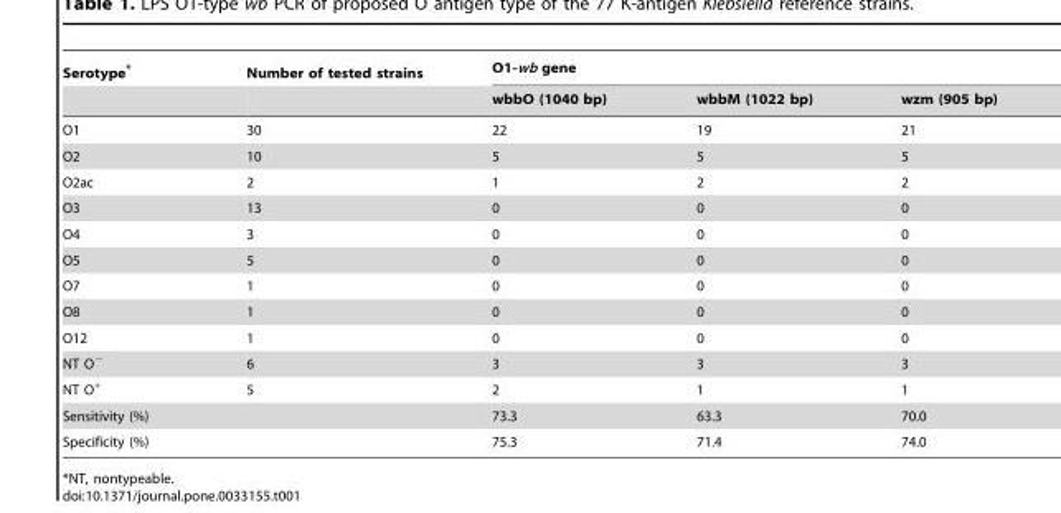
<table><thead><tr><td rowspan="2">Serotype*</td><td rowspan="2">Number of tested strains</td><td colspan="3">O1-wb gene</td></tr><tr><td>wbbO (1040 bp)</td><td>wbbM (1022 bp)</td><td>wzm (905 bp)</td></tr></thead><tbody><tr><td>O1</td><td>30</td><td>22</td><td>19</td><td>21</td></tr><tr><td>O2</td><td>10</td><td>5</td><td>5</td><td>5</td></tr><tr><td>O2ac</td><td>2</td><td>1</td><td>2</td><td>2</td></tr><tr><td>O3</td><td>13</td><td>0</td><td>0</td><td>0</td></tr><tr><td>O4</td><td>3</td><td>0</td><td>0</td><td>0</td></tr><tr><td>O5</td><td>5</td><td>0</td><td>0</td><td>0</td></tr><tr><td>O7</td><td>1</td><td>0</td><td>0</td><td>0</td></tr><tr><td>O8</td><td>1</td><td>0</td><td>0</td><td>0</td></tr><tr><td>O12</td><td>1</td><td>0</td><td>0</td><td>0</td></tr><tr><td>NT O<sup>−</sup></td><td>6</td><td>3</td><td>3</td><td>3</td></tr><tr><td>NT O<sup>+</sup></td><td>5</td><td>2</td><td>1</td><td>1</td></tr><tr><td colspan="2">Sensitivity (%)</td><td>73.3</td><td>63.3</td><td>70.0</td></tr><tr><td colspan="2">Specificity (%)</td><td>75.3</td><td>71.4</td><td>74.0</td></tr></tbody></table>